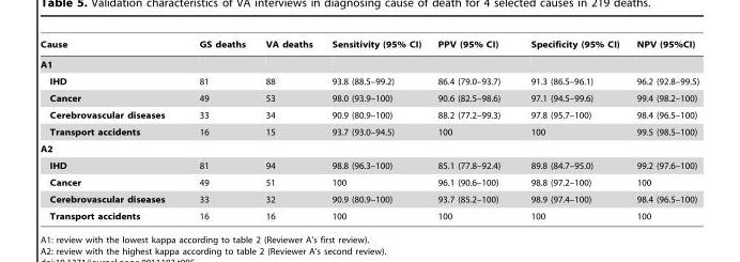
<table><thead><tr><td>Cause</td><td>GS deaths</td><td>VA deaths</td><td>Sensitivity (95% CI)</td><td>PPV (95% CI)</td><td>Specificity (95% CI)</td><td>NPV (95%CI)</td></tr></thead><tbody><tr><td colspan="7">A1</td></tr><tr><td>IHD</td><td>81</td><td>88</td><td>93.8 (88.5–99.2)</td><td>86.4 (79.0–93.7)</td><td>91.3 (86.5–96.1)</td><td>96.2 (92.8–99.5)</td></tr><tr><td>Cancer</td><td>49</td><td>53</td><td>98.0 (93.9–100)</td><td>90.6 (82.5–98.6)</td><td>97.1 (94.5–99.6)</td><td>99.4 (98.2–100)</td></tr><tr><td>Cerebrovascular diseases</td><td>33</td><td>34</td><td>90.9 (80.9–100)</td><td>88.2 (77.2–99.3)</td><td>97.8 (95.7–100)</td><td>98.4 (96.5–100)</td></tr><tr><td>Transport accidents</td><td>16</td><td>15</td><td>93.7 (93.0–94.5)</td><td>100</td><td>100</td><td>99.5 (98.5–100)</td></tr><tr><td colspan="7">A2</td></tr><tr><td>IHD</td><td>81</td><td>94</td><td>98.8 (96.3–100)</td><td>85.1 (77.8–92.4)</td><td>89.8 (84.7–95.0)</td><td>99.2 (97.6–100)</td></tr><tr><td>Cancer</td><td>49</td><td>51</td><td>100</td><td>96.1 (90.6–100)</td><td>98.8 (97.2–100)</td><td>100</td></tr><tr><td>Cerebrovascular diseases</td><td>33</td><td>32</td><td>90.9 (80.9–100)</td><td>93.7 (85.2–100)</td><td>98.9 (97.4–100)</td><td>98.4 (96.5–100)</td></tr><tr><td>Transport accidents</td><td>16</td><td>16</td><td>100</td><td>100</td><td>100</td><td>100</td></tr></tbody></table>